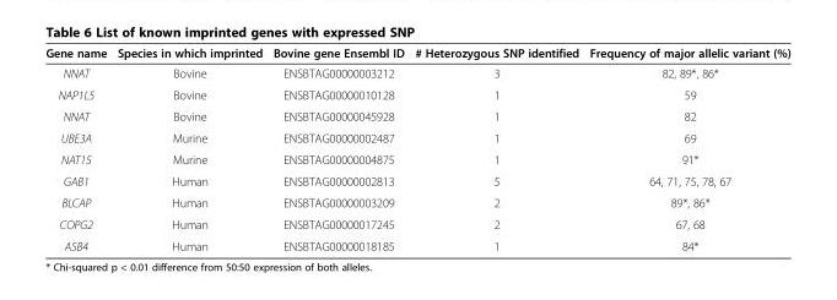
<table><thead><tr><td>Gene name</td><td>Species in which imprinted</td><td>Bovine gene Ensembl ID</td><td># Heterozygous SNP identified</td><td>Frequency of major allelic variant (%)</td></tr></thead><tbody><tr><td>NNAT</td><td>Bovine</td><td>ENSBTAG00000003212</td><td>3</td><td>82, 89*, 86*</td></tr><tr><td>NAP1L5</td><td>Bovine</td><td>ENSBTAG00000010128</td><td>1</td><td>59</td></tr><tr><td>NNAT</td><td>Bovine</td><td>ENSBTAG00000045928</td><td>1</td><td>82</td></tr><tr><td>UBE3A</td><td>Murine</td><td>ENSBTAG00000002487</td><td>1</td><td>69</td></tr><tr><td>NAT15</td><td>Murine</td><td>ENSBTAG00000004875</td><td>1</td><td>91*</td></tr><tr><td>GAB1</td><td>Human</td><td>ENSBTAG00000002813</td><td>5</td><td>64, 71, 75, 78, 67</td></tr><tr><td>BLCAP</td><td>Human</td><td>ENSBTAG00000003209</td><td>2</td><td>89*, 86*</td></tr><tr><td>COPG2</td><td>Human</td><td>ENSBTAG00000017245</td><td>2</td><td>67, 68</td></tr><tr><td>ASB4</td><td>Human</td><td>ENSBTAG00000018185</td><td>1</td><td>84*</td></tr></tbody></table>